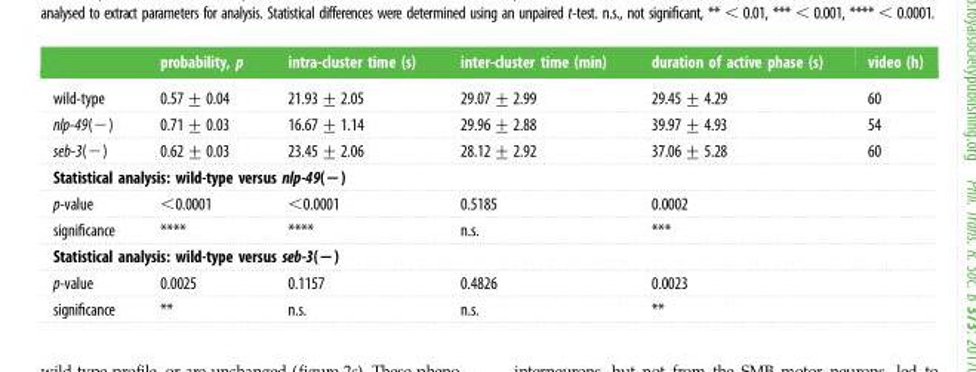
<table><thead><tr><td></td><td>probability, p</td><td>intra-cluster time (s)</td><td>inter-cluster time (min)</td><td>duration of active phase (s)</td><td>video (h)</td></tr></thead><tbody><tr><td>wild-type</td><td>0.57 + 0.04</td><td>21.93+ 2.05</td><td>29.07+ 2.99</td><td>29.45+ 4.29</td><td>60</td></tr><tr><td>nlp-49(−)</td><td>0.71 + 0.03</td><td>16.67+ 1.14</td><td>29.96+ 2.88</td><td>39.97+ 4.93</td><td>54</td></tr><tr><td>seb-3(−)</td><td>0.62 + 0.03</td><td>23.45+ 2.06</td><td>28.12+ 2.92</td><td>37.06+ 5.28</td><td>60</td></tr><tr><td colspan="6">Statistical analysis: wild-type versus nlp-49(−)</td></tr><tr><td>p-value</td><td>&lt;0.0001</td><td>&lt;0.0001</td><td>0.5185</td><td>0.0002</td><td></td></tr><tr><td>significance</td><td>****</td><td>****</td><td>n.s.</td><td>***</td><td></td></tr><tr><td colspan="6">Statistical analysis: wild-type versus seb-3(−)</td></tr><tr><td>p-value</td><td>0.0025</td><td>0.1157</td><td>0.4826</td><td>0.0023</td><td></td></tr><tr><td>significance</td><td>**</td><td>n.s.</td><td>n.s.</td><td>**</td><td></td></tr></tbody></table>